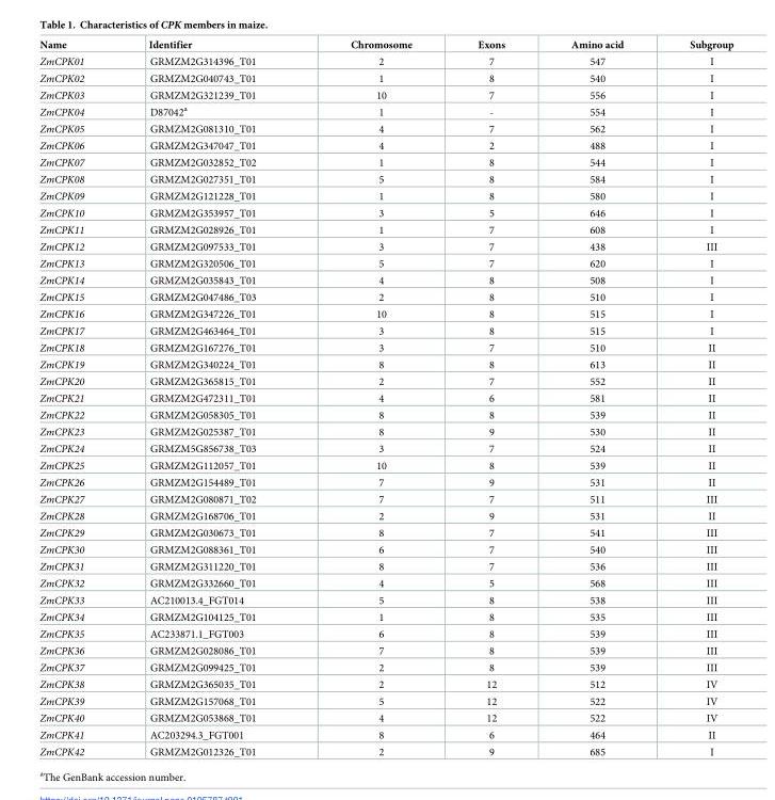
<table><thead><tr><td>Name</td><td>Identifier</td><td>Chromosome</td><td>Exons</td><td>Amino acid</td><td>Subgroup</td></tr></thead><tbody><tr><td>ZmCPK01</td><td>GRMZM2G314396_T01</td><td>2</td><td>7</td><td>547</td><td>I</td></tr><tr><td>ZmCPK02</td><td>GRMZM2G040743_T01</td><td>1</td><td>8</td><td>540</td><td>I</td></tr><tr><td>ZmCPK03</td><td>GRMZM2G321239_T01</td><td>10</td><td>7</td><td>556</td><td>I</td></tr><tr><td>ZmCPK04</td><td>D87042<sup>a</sup></td><td>1</td><td>-</td><td>554</td><td>I</td></tr><tr><td>ZmCPK05</td><td>GRMZM2G081310_T01</td><td>4</td><td>7</td><td>562</td><td>I</td></tr><tr><td>ZmCPK06</td><td>GRMZM2G347047_T01</td><td>4</td><td>2</td><td>488</td><td>I</td></tr><tr><td>ZmCPK07</td><td>GRMZM2G032852_T02</td><td>1</td><td>8</td><td>544</td><td>I</td></tr><tr><td>ZmCPK08</td><td>GRMZM2G027351_T01</td><td>5</td><td>8</td><td>584</td><td>I</td></tr><tr><td>ZmCPK09</td><td>GRMZM2G121228_T01</td><td>1</td><td>8</td><td>580</td><td>I</td></tr><tr><td>ZmCPK10</td><td>GRMZM2G353957_T01</td><td>3</td><td>5</td><td>646</td><td>I</td></tr><tr><td>ZmCPK11</td><td>GRMZM2G028926_T01</td><td>1</td><td>7</td><td>608</td><td>I</td></tr><tr><td>ZmCPK12</td><td>GRMZM2G097533_T01</td><td>3</td><td>7</td><td>438</td><td>III</td></tr><tr><td>ZmCPK13</td><td>GRMZM2G320506_T01</td><td>5</td><td>7</td><td>620</td><td>I</td></tr><tr><td>ZmCPK14</td><td>GRMZM2G035843_T01</td><td>4</td><td>8</td><td>508</td><td>I</td></tr><tr><td>ZmCPK15</td><td>GRMZM2G047486_T03</td><td>2</td><td>8</td><td>510</td><td>I</td></tr><tr><td>ZmCPK16</td><td>GRMZM2G347226_T01</td><td>10</td><td>8</td><td>515</td><td>I</td></tr><tr><td>ZmCPK17</td><td>GRMZM2G463464_T01</td><td>3</td><td>8</td><td>515</td><td>I</td></tr><tr><td>ZmCPK18</td><td>GRMZM2G167276_T01</td><td>3</td><td>7</td><td>510</td><td>II</td></tr><tr><td>ZmCPK19</td><td>GRMZM2G340224_T01</td><td>8</td><td>8</td><td>613</td><td>II</td></tr><tr><td>ZmCPK20</td><td>GRMZM2G365815_T01</td><td>2</td><td>7</td><td>552</td><td>II</td></tr><tr><td>ZmCPK21</td><td>GRMZM2G472311_T01</td><td>4</td><td>6</td><td>581</td><td>II</td></tr><tr><td>ZmCPK22</td><td>GRMZM2G058305_T01</td><td>8</td><td>8</td><td>539</td><td>II</td></tr><tr><td>ZmCPK23</td><td>GRMZM2G025387_T01</td><td>8</td><td>9</td><td>530</td><td>II</td></tr><tr><td>ZmCPK24</td><td>GRMZM5G856738_T03</td><td>3</td><td>7</td><td>524</td><td>II</td></tr><tr><td>ZmCPK25</td><td>GRMZM2G112057_T01</td><td>10</td><td>8</td><td>539</td><td>II</td></tr><tr><td>ZmCPK26</td><td>GRMZM2G154489_T01</td><td>7</td><td>9</td><td>531</td><td>II</td></tr><tr><td>ZmCPK27</td><td>GRMZM2G080871_T02</td><td>7</td><td>7</td><td>511</td><td>III</td></tr><tr><td>ZmCPK28</td><td>GRMZM2G168706_T01</td><td>2</td><td>9</td><td>531</td><td>II</td></tr><tr><td>ZmCPK29</td><td>GRMZM2G030673_T01</td><td>8</td><td>7</td><td>541</td><td>III</td></tr><tr><td>ZmCPK30</td><td>GRMZM2G088361_T01</td><td>6</td><td>7</td><td>540</td><td>III</td></tr><tr><td>ZmCPK31</td><td>GRMZM2G311220_T01</td><td>8</td><td>7</td><td>536</td><td>III</td></tr><tr><td>ZmCPK32</td><td>GRMZM2G332660_T01</td><td>4</td><td>5</td><td>568</td><td>III</td></tr><tr><td>ZmCPK33</td><td>AC210013.4_FGT014</td><td>5</td><td>8</td><td>538</td><td>III</td></tr><tr><td>ZmCPK34</td><td>GRMZM2G104125_T01</td><td>1</td><td>8</td><td>535</td><td>III</td></tr><tr><td>ZmCPK35</td><td>AC233871.1_FGT003</td><td>6</td><td>8</td><td>539</td><td>III</td></tr><tr><td>ZmCPK36</td><td>GRMZM2G028086_T01</td><td>7</td><td>8</td><td>539</td><td>III</td></tr><tr><td>ZmCPK37</td><td>GRMZM2G099425_T01</td><td>2</td><td>8</td><td>539</td><td>III</td></tr><tr><td>ZmCPK38</td><td>GRMZM2G365035_T01</td><td>2</td><td>12</td><td>512</td><td>IV</td></tr><tr><td>ZmCPK39</td><td>GRMZM2G157068_T01</td><td>5</td><td>12</td><td>522</td><td>IV</td></tr><tr><td>ZmCPK40</td><td>GRMZM2G053868_T01</td><td>4</td><td>12</td><td>522</td><td>IV</td></tr><tr><td>ZmCPK41</td><td>AC203294.3_FGT001</td><td>8</td><td>6</td><td>464</td><td>II</td></tr><tr><td>ZmCPK42</td><td>GRMZM2G012326_T01</td><td>2</td><td>9</td><td>685</td><td>I</td></tr></tbody></table>